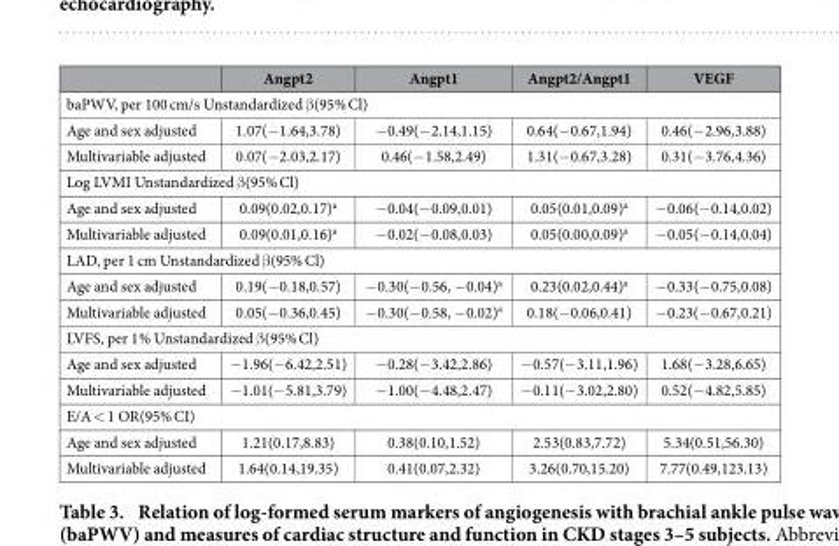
<table><thead><tr><td></td><td>Angpt2</td><td>Angpt1</td><td>Angpt2/Angpt1</td><td>VEGF</td></tr></thead><tbody><tr><td colspan="5">baPWV, per 100 cm/s Unstandardized β (95% Cl)</td></tr><tr><td>Age and sex adjusted</td><td>1.07(− 1.64,3.78)</td><td>− 0.49(− 2.14,1.15)</td><td>0.64(− 0.67,1.94)</td><td>0.46(− 2.96,3.88)</td></tr><tr><td>Multivariable adjusted</td><td>0.07(− 2.03,2.17)</td><td>0.46(− 1.58,2.49)</td><td>1.31(− 0.67,3.28)</td><td>0.31(− 3.76,4.36)</td></tr><tr><td colspan="5">Log LVMI Unstandardized β (95% Cl)</td></tr><tr><td>Age and sex adjusted</td><td>0.09(0.02,0.17)<sup>a</sup></td><td>− 0.04(− 0.09,0.01)</td><td>0.05(0.01,0.09)<sup>a</sup></td><td>− 0.06(− 0.14,0.02)</td></tr><tr><td>Multivariable adjusted</td><td>0.09(0.01,0.16)<sup>a</sup></td><td>− 0.02(− 0.08,0.03)</td><td>0.05(0.00,0.09)<sup>a</sup></td><td>− 0.05(− 0.14,0.04)</td></tr><tr><td colspan="5">LAD, per 1 cm Unstandardized β (95% Cl)</td></tr><tr><td>Age and sex adjusted</td><td>0.19(− 0.18,0.57)</td><td>− 0.30(− 0.56, − 0.04)<sup>a</sup></td><td>0.23(0.02,0.44)<sup>a</sup></td><td>− 0.33(− 0.75,0.08)</td></tr><tr><td>Multivariable adjusted</td><td>0.05(− 0.36,0.45)</td><td>− 0.30(− 0.58, − 0.02)<sup>a</sup></td><td>0.18(− 0.06,0.41)</td><td>− 0.23(− 0.67,0.21)</td></tr><tr><td colspan="5">LVFS, per 1% Unstandardized β (95% Cl)</td></tr><tr><td>Age and sex adjusted</td><td>− 1.96(− 6.42,2.51)</td><td>− 0.28(− 3.42,2.86)</td><td>− 0.57(− 3.11,1.96)</td><td>1.68(− 3.28,6.65)</td></tr><tr><td>Multivariable adjusted</td><td>− 1.01(− 5.81,3.79)</td><td>− 1.00(− 4.48,2.47)</td><td>− 0.11(− 3.02,2.80)</td><td>0.52(− 4.82,5.85)</td></tr><tr><td colspan="5">E/A &lt; 1 OR(95% CI)</td></tr><tr><td>Age and sex adjusted</td><td>1.21(0.17,8.83)</td><td>0.38(0.10,1.52)</td><td>2.53(0.83,7.72)</td><td>5.34(0.51,56.30)</td></tr><tr><td>Multivariable adjusted</td><td>1.64(0.14,19.35)</td><td>0.41(0.07,2.32)</td><td>3.26(0.70,15.20)</td><td>7.77(0.49,123.13)</td></tr></tbody></table>